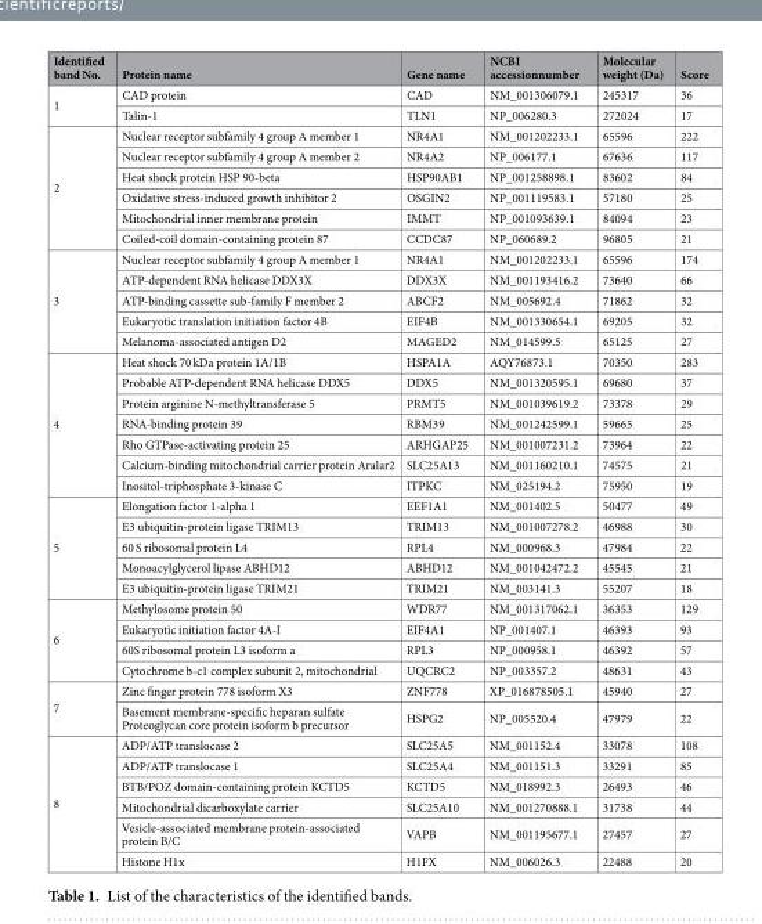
<table><thead><tr><td>Identified band No.</td><td>Protein name</td><td>Gene name</td><td>NCBI accessionnumber</td><td>Molecular weight (Da)</td><td>Score</td></tr></thead><tbody><tr><td rowspan="2">1</td><td>CAD protein</td><td>CAD</td><td>NM_001306079.1</td><td>245317</td><td>36</td></tr><tr><td>Talin-1</td><td>TLN1</td><td>NP_006280.3</td><td>272024</td><td>17</td></tr><tr><td rowspan="6">2</td><td>Nuclear receptor subfamily 4 group A member 1</td><td>NR4A1</td><td>NM_001202233.1</td><td>65596</td><td>222</td></tr><tr><td>Nuclear receptor subfamily 4 group A member 2</td><td>NR4A2</td><td>NP_006177.1</td><td>67636</td><td>117</td></tr><tr><td>Heat shock protein HSP 90-beta</td><td>HSP90AB1</td><td>NP_001258898.1</td><td>83602</td><td>84</td></tr><tr><td>Oxidative stress-induced growth inhibitor 2</td><td>OSGIN2</td><td>NP_001119583.1</td><td>57180</td><td>25</td></tr><tr><td>Mitochondrial inner membrane protein</td><td>IMMT</td><td>NP_001093639.1</td><td>84094</td><td>23</td></tr><tr><td>Coiled-coil domain-containing protein 87</td><td>CCDC87</td><td>NP_060689.2</td><td>96805</td><td>21</td></tr><tr><td rowspan="5">3</td><td>Nuclear receptor subfamily 4 group A member 1</td><td>NR4A1</td><td>NM_001202233.1</td><td>65596</td><td>174</td></tr><tr><td>ATP-dependent RNA helicase DDX3X</td><td>DDX3X</td><td>NM_001193416.2</td><td>73640</td><td>66</td></tr><tr><td>ATP-binding cassette sub-family F member 2</td><td>ABCF2</td><td>NM_005692.4</td><td>71862</td><td>32</td></tr><tr><td>Eukaryotic translation initiation factor 4B</td><td>EIF4B</td><td>NM_001330654.1</td><td>69205</td><td>32</td></tr><tr><td>Melanoma-associated antigen D2</td><td>MAGED2</td><td>NM_014599.5</td><td>65125</td><td>27</td></tr><tr><td rowspan="7">4</td><td>Heat shock 70 kDa protein 1A/1B</td><td>HSPA1A</td><td>AQY76873.1</td><td>70350</td><td>283</td></tr><tr><td>Probable ATP-dependent RNA helicase DDX5</td><td>DDX5</td><td>NM_001320595.1</td><td>69680</td><td>37</td></tr><tr><td>Protein arginine N-methyltransferase 5</td><td>PRMT5</td><td>NM_001039619.2</td><td>73378</td><td>29</td></tr><tr><td>RNA-binding protein 39</td><td>RBM39</td><td>NM_001242599.1</td><td>59665</td><td>25</td></tr><tr><td>Rho GTPase-activating protein 25</td><td>ARHGAP25</td><td>NM_001007231.2</td><td>73964</td><td>22</td></tr><tr><td>Calcium-binding mitochondrial carrier protein Aralar2</td><td>SLC25A13</td><td>NM_001160210.1</td><td>74575</td><td>21</td></tr><tr><td>Inositol-triphosphate 3-kinase C</td><td>ITPKC</td><td>NM_025194.2</td><td>75950</td><td>19</td></tr><tr><td rowspan="5">5</td><td>Elongation factor 1-alpha 1</td><td>EEF1A1</td><td>NM_001402.5</td><td>50477</td><td>49</td></tr><tr><td>E3 ubiquitin-protein ligase TRIM13</td><td>TRIM13</td><td>NM_001007278.2</td><td>46988</td><td>30</td></tr><tr><td>60 S ribosomal protein L4</td><td>RPL4</td><td>NM_000968.3</td><td>47984</td><td>22</td></tr><tr><td>Monoacylglycerol lipase ABHD12</td><td>ABHD12</td><td>NM_001042472.2</td><td>45545</td><td>21</td></tr><tr><td>E3 ubiquitin-protein ligase TRIM21</td><td>TRIM21</td><td>NM_003141.3</td><td>55207</td><td>18</td></tr><tr><td rowspan="4">6</td><td>Methylosome protein 50</td><td>WDR77</td><td>NM_001317062.1</td><td>36353</td><td>129</td></tr><tr><td>Eukaryotic initiation factor 4A-I</td><td>EIF4A1</td><td>NP_001407.1</td><td>46393</td><td>93</td></tr><tr><td>60S ribosomal protein L3 isoform a</td><td>RPL3</td><td>NP_000958.1</td><td>46392</td><td>57</td></tr><tr><td>Cytochrome b-c1 complex subunit 2, mitochondrial</td><td>UQCRC2</td><td>NP_003357.2</td><td>48631</td><td>43</td></tr><tr><td rowspan="2">7</td><td>Zinc finger protein 778 isoform X3</td><td>ZNF778</td><td>XP_016878505.1</td><td>45940</td><td>27</td></tr><tr><td>Basement membrane-specific heparan sulfate Proteoglycan core protein isoform b precursor</td><td>HSPG2</td><td>NP_005520.4</td><td>47979</td><td>22</td></tr><tr><td rowspan="6">8</td><td>ADP/ATP translocase 2</td><td>SLC25A5</td><td>NM_001152.4</td><td>33078</td><td>108</td></tr><tr><td>ADP/ATP translocase 1</td><td>SLC25A4</td><td>NM_001151.3</td><td>33291</td><td>85</td></tr><tr><td>BTB/POZ domain-containing protein KCTD5</td><td>KCTD5</td><td>NM_018992.3</td><td>26493</td><td>46</td></tr><tr><td>Mitochondrial dicarboxylate carrier</td><td>SLC25A10</td><td>NM_001270888.1</td><td>31738</td><td>44</td></tr><tr><td>Vesicle-associated membrane protein-associated protein B/C</td><td>VAPB</td><td>NM_001195677.1</td><td>27457</td><td>27</td></tr><tr><td>Histone H1x</td><td>H1FX</td><td>NM_006026.3</td><td>22488</td><td>20</td></tr></tbody></table>